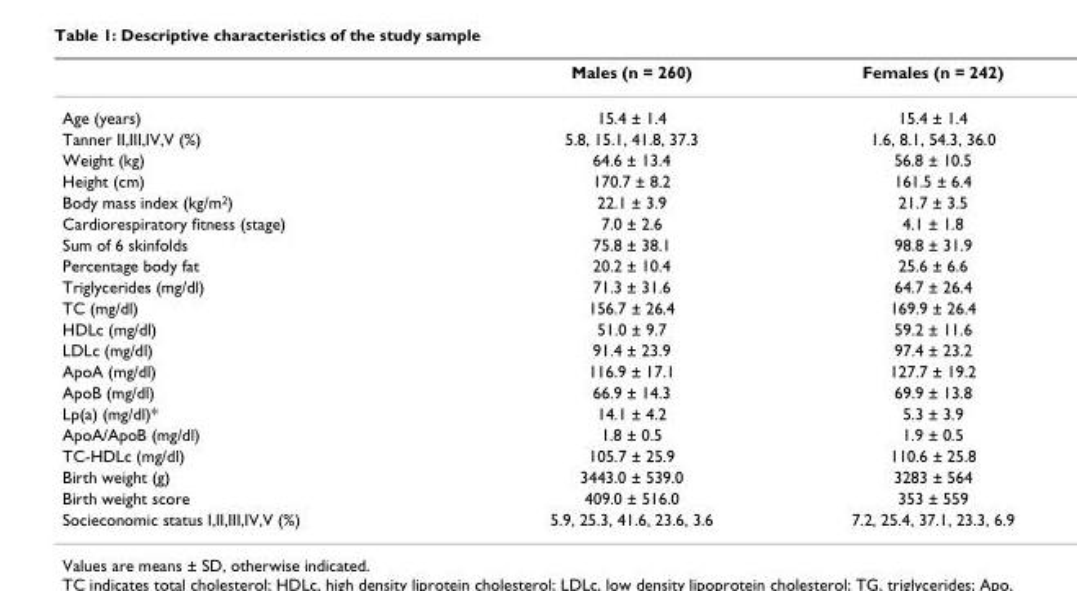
<table><thead><tr><td></td><td>Males (n = 260)</td><td>Females (n = 242)</td></tr></thead><tbody><tr><td>Age (years)</td><td>15.4 ± 1.4</td><td>15.4 ± 1.4</td></tr><tr><td>Tanner II,III,IV,V (%)</td><td>5.8, 15.1, 41.8, 37.3</td><td>1.6, 8.1, 54.3, 36.0</td></tr><tr><td>Weight (kg)</td><td>64.6 ± 13.4</td><td>56.8 ± 10.5</td></tr><tr><td>Height (cm)</td><td>170.7 ± 8.2</td><td>161.5 ± 6.4</td></tr><tr><td>Body mass index (kg/m<sup>2</sup>)</td><td>22.1 ± 3.9</td><td>21.7 ± 3.5</td></tr><tr><td>Cardiorespiratory fitness (stage)</td><td>7.0 ± 2.6</td><td>4.1 ± 1.8</td></tr><tr><td>Sum of 6 skinfolds</td><td>75.8 ± 38.1</td><td>98.8 ± 31.9</td></tr><tr><td>Percentage body fat</td><td>20.2 ± 10.4</td><td>25.6 ± 6.6</td></tr><tr><td>Triglycerides (mg/dl)</td><td>71.3 ± 31.6</td><td>64.7 ± 26.4</td></tr><tr><td>TC (mg/dl)</td><td>156.7 ± 26.4</td><td>169.9 ± 26.4</td></tr><tr><td>HDLc (mg/dl)</td><td>51.0 ± 9.7</td><td>59.2 ± 11.6</td></tr><tr><td>LDLc (mg/dl)</td><td>91.4 ± 23.9</td><td>97.4 ± 23.2</td></tr><tr><td>ApoA (mg/dl)</td><td>116.9 ± 17.1</td><td>127.7 ± 19.2</td></tr><tr><td>ApoB (mg/dl)</td><td>66.9 ± 14.3</td><td>69.9 ± 13.8</td></tr><tr><td>Lp(a) (mg/dl)*</td><td>14.1 ± 4.2</td><td>5.3 ± 3.9</td></tr><tr><td>ApoA/ApoB (mg/dl)</td><td>1.8 ± 0.5</td><td>1.9 ± 0.5</td></tr><tr><td>TC-HDLc (mg/dl)</td><td>105.7 ± 25.9</td><td>110.6 ± 25.8</td></tr><tr><td>Birth weight (g)</td><td>3443.0 ± 539.0</td><td>3283 ± 564</td></tr><tr><td>Birth weight score</td><td>409.0 ± 516.0</td><td>353 ± 559</td></tr><tr><td>Socieconomic status I,II,III,IV,V (%)</td><td>5.9, 25.3, 41.6, 23.6, 3.6</td><td>7.2, 25.4, 37.1, 23.3, 6.9</td></tr></tbody></table>